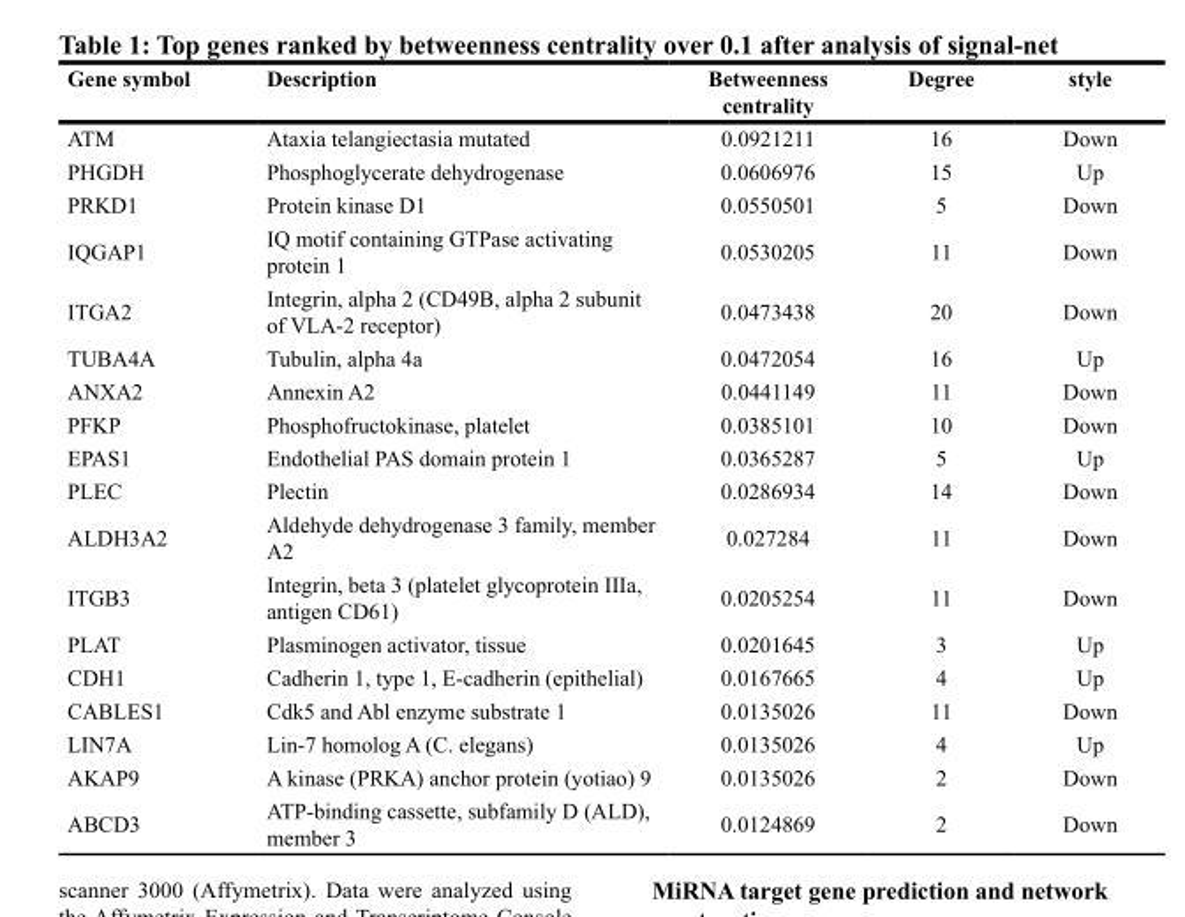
<table><thead><tr><td>Gene symbol</td><td>Description</td><td>Betweenness centrality</td><td>Degree</td><td>style</td></tr></thead><tbody><tr><td>ATM</td><td>Ataxia telangiectasia mutated</td><td>0.0921211</td><td>16</td><td>Down</td></tr><tr><td>PHGDH</td><td>Phosphoglycerate dehydrogenase</td><td>0.0606976</td><td>15</td><td>Up</td></tr><tr><td>PRKD1</td><td>Protein kinase D1</td><td>0.0550501</td><td>5</td><td>Down</td></tr><tr><td>IQGAP1</td><td>IQ motif containing GTPase activating protein 1</td><td>0.0530205</td><td>11</td><td>Down</td></tr><tr><td>ITGA2</td><td>Integrin, alpha 2 (CD49B, alpha 2 subunit of VLA-2 receptor)</td><td>0.0473438</td><td>20</td><td>Down</td></tr><tr><td>TUBA4A</td><td>Tubulin, alpha 4a</td><td>0.0472054</td><td>16</td><td>Up</td></tr><tr><td>ANXA2</td><td>Annexin A2</td><td>0.0441149</td><td>11</td><td>Down</td></tr><tr><td>PFKP</td><td>Phosphofructokinase, platelet</td><td>0.0385101</td><td>10</td><td>Down</td></tr><tr><td>EPAS1</td><td>Endothelial PAS domain protein 1</td><td>0.0365287</td><td>5</td><td>Up</td></tr><tr><td>PLEC</td><td>Plectin</td><td>0.0286934</td><td>14</td><td>Down</td></tr><tr><td>ALDH3A2</td><td>Aldehyde dehydrogenase 3 family, member A2</td><td>0.027284</td><td>11</td><td>Down</td></tr><tr><td>ITGB3</td><td>Integrin, beta 3 (platelet glycoprotein IIIa, antigen CD61)</td><td>0.0205254</td><td>11</td><td>Down</td></tr><tr><td>PLAT</td><td>Plasminogen activator, tissue</td><td>0.0201645</td><td>3</td><td>Up</td></tr><tr><td>CDH1</td><td>Cadherin 1, type 1, E-cadherin (epithelial)</td><td>0.0167665</td><td>4</td><td>Up</td></tr><tr><td>CABLES1</td><td>Cdk5 and Abl enzyme substrate 1</td><td>0.0135026</td><td>11</td><td>Down</td></tr><tr><td>LIN7A</td><td>Lin-7 homolog A (C. elegans)</td><td>0.0135026</td><td>4</td><td>Up</td></tr><tr><td>AKAP9</td><td>A kinase (PRKA) anchor protein (yotiao) 9</td><td>0.0135026</td><td>2</td><td>Down</td></tr><tr><td>ABCD3</td><td>ATP-binding cassette, subfamily D (ALD), member 3</td><td>0.0124869</td><td>2</td><td>Down</td></tr></tbody></table>